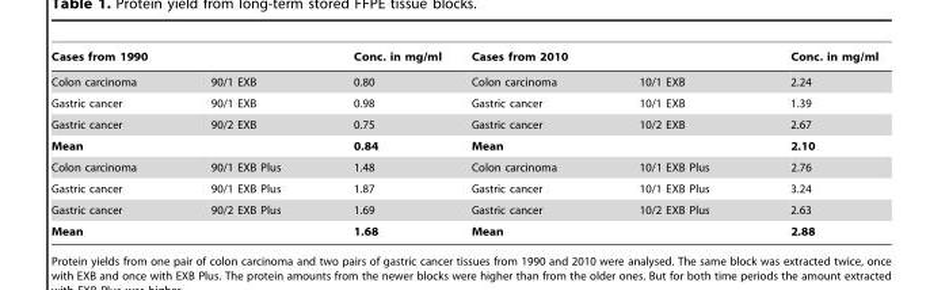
<table><thead><tr><td colspan="2">Cases from 1990</td><td rowspan="2">Conc. in mg/ml 0.80</td><td colspan="2">Cases from 2010</td><td rowspan="2">Conc. in mg/ml 2.24</td></tr><tr><td>Colon carcinoma</td><td>90/1 EXB</td><td>Colon carcinoma</td><td>10/1 EXB</td></tr></thead><tbody><tr><td>Gastric cancer</td><td>90/1 EXB</td><td>0.98</td><td>Gastric cancer</td><td>10/1 EXB</td><td>1.39</td></tr><tr><td>Gastric cancer</td><td>90/2 EXB</td><td>0.75</td><td>Gastric cancer</td><td>10/2 EXB</td><td>2.67</td></tr><tr><td>Mean</td><td></td><td>0.84</td><td>Mean</td><td></td><td>2.10</td></tr><tr><td>Colon carcinoma</td><td>90/1 EXB Plus</td><td>1.48</td><td>Colon carcinoma</td><td>10/1 EXB Plus</td><td>2.76</td></tr><tr><td>Gastric cancer</td><td>90/1 EXB Plus</td><td>1.87</td><td>Gastric cancer</td><td>10/1 EXB Plus</td><td>3.24</td></tr><tr><td>Gastric cancer</td><td>90/2 EXB Plus</td><td>1.69</td><td>Gastric cancer</td><td>10/2 EXB Plus</td><td>2.63</td></tr><tr><td>Mean</td><td></td><td>1.68</td><td>Mean</td><td></td><td>2.88</td></tr></tbody></table>